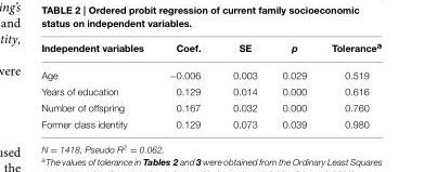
<table><thead><tr><td>Independent variables</td><td>Coef.</td><td>SE</td><td>p</td><td>Tolerance<sup>a</sup></td></tr></thead><tbody><tr><td>Age</td><td>−0.006</td><td>0.003</td><td>0.029</td><td>0.519</td></tr><tr><td>Years of education</td><td>0.129</td><td>0.014</td><td>0.000</td><td>0.616</td></tr><tr><td>Number of offspring</td><td>0.167</td><td>0.032</td><td>0.000</td><td>0.760</td></tr><tr><td>Former class identity</td><td>0.129</td><td>0.073</td><td>0.039</td><td>0.980</td></tr></tbody></table>